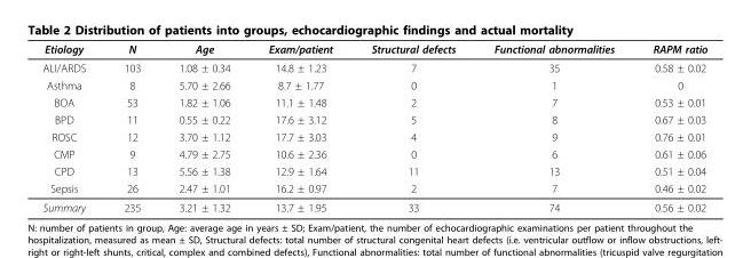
<table><thead><tr><td>Etiology</td><td>N</td><td>Age</td><td>Exam/patient</td><td>Structural defects</td><td>Functional abnormalities</td><td>RAPM ratio</td></tr></thead><tbody><tr><td>ALI/ARDS</td><td>103</td><td>1.08 ± 0.34</td><td>14.8 ± 1.23</td><td>7</td><td>35</td><td>0.58 ± 0.02</td></tr><tr><td>Asthma</td><td>8</td><td>5.70 ± 2.66</td><td>8.7 ± 1.77</td><td>0</td><td>1</td><td>0</td></tr><tr><td>BOA</td><td>53</td><td>1.82 ± 1.06</td><td>11.1 ± 1.48</td><td>2</td><td>7</td><td>0.53 ± 0.01</td></tr><tr><td>BPD</td><td>11</td><td>0.55 ± 0.22</td><td>17.6 ± 3.12</td><td>5</td><td>8</td><td>0.67 ± 0.03</td></tr><tr><td>ROSC</td><td>12</td><td>3.70 ± 1.12</td><td>17.7 ± 3.03</td><td>4</td><td>9</td><td>0.76 ± 0.01</td></tr><tr><td>CMP</td><td>9</td><td>4.79 ± 2.75</td><td>10.6 ± 2.36</td><td>0</td><td>6</td><td>0.61 ± 0.06</td></tr><tr><td>CPD</td><td>13</td><td>5.56 ± 1.38</td><td>12.9 ± 1.64</td><td>11</td><td>13</td><td>0.51 ± 0.04</td></tr><tr><td>Sepsis</td><td>26</td><td>2.47 ± 1.01</td><td>16.2 ± 0.97</td><td>2</td><td>7</td><td>0.46 ± 0.02</td></tr><tr><td>Summary</td><td>235</td><td>3.21 ± 1.32</td><td>13.7 ± 1.95</td><td>33</td><td>74</td><td>0.56 ± 0.02</td></tr></tbody></table>